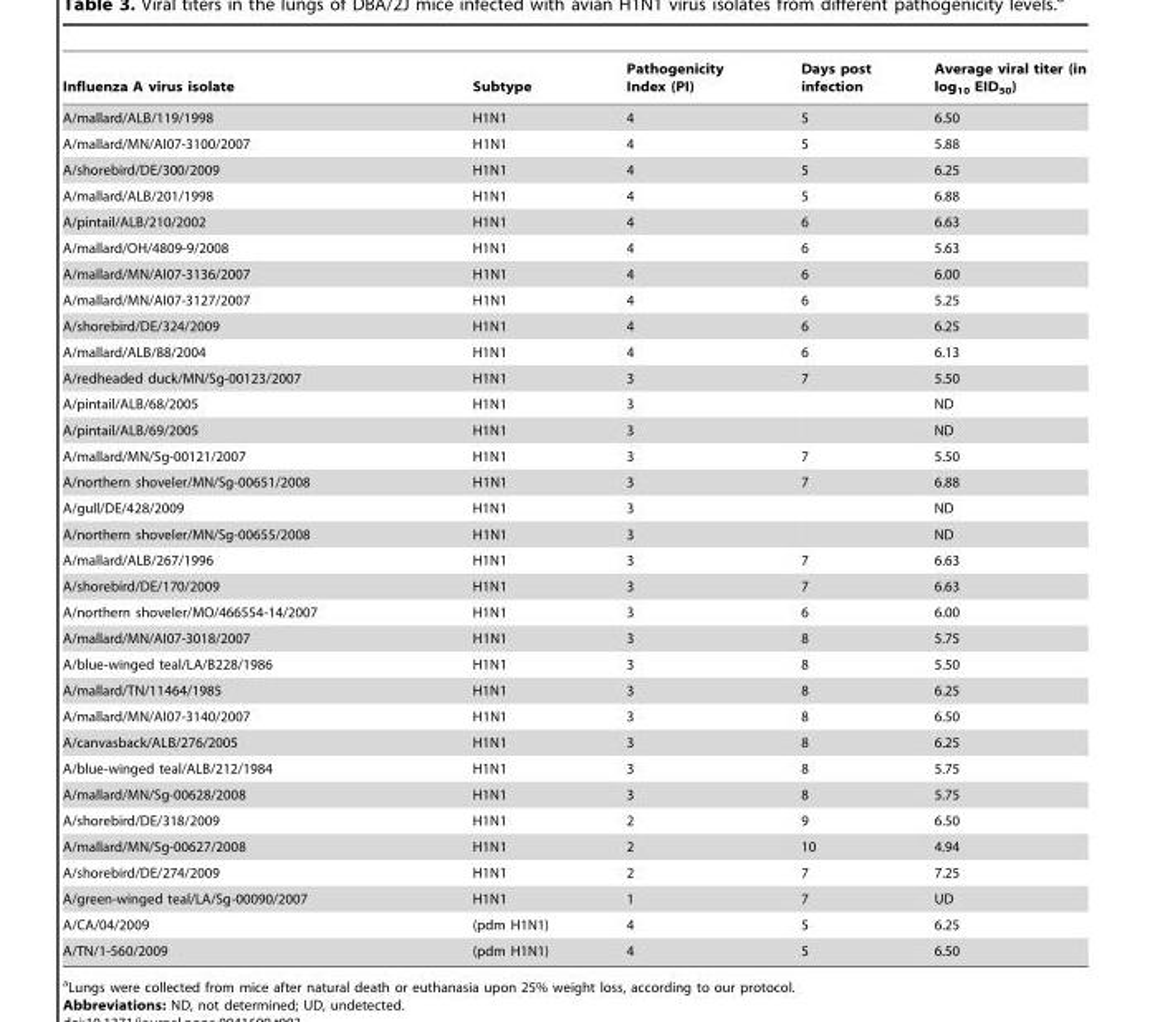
<table><thead><tr><td>Influenza A virus isolate</td><td>Subtype</td><td>Pathogenicity Index (PI)</td><td>Days post infection</td><td>Average viral titer (in log<sub>10</sub> EID<sub>50</sub>)</td></tr></thead><tbody><tr><td>A/mallard/ALB/119/1998</td><td>H1N1</td><td>4</td><td>5</td><td>6.50</td></tr><tr><td>A/mallard/MN/AI07-3100/2007</td><td>H1N1</td><td>4</td><td>5</td><td>5.88</td></tr><tr><td>A/shorebird/DE/300/2009</td><td>H1N1</td><td>4</td><td>5</td><td>6.25</td></tr><tr><td>A/mallard/ALB/201/1998</td><td>H1N1</td><td>4</td><td>5</td><td>6.88</td></tr><tr><td>A/pintail/ALB/210/2002</td><td>H1N1</td><td>4</td><td>6</td><td>6.63</td></tr><tr><td>A/mallard/OH/4809-9/2008</td><td>H1N1</td><td>4</td><td>6</td><td>5.63</td></tr><tr><td>A/mallard/MN/AI07-3136/2007</td><td>H1N1</td><td>4</td><td>6</td><td>6.00</td></tr><tr><td>A/mallard/MN/AI07-3127/2007</td><td>H1N1</td><td>4</td><td>6</td><td>5.25</td></tr><tr><td>A/shorebird/DE/324/2009</td><td>H1N1</td><td>4</td><td>6</td><td>6.25</td></tr><tr><td>A/mallard/ALB/88/2004</td><td>H1N1</td><td>4</td><td>6</td><td>6.13</td></tr><tr><td>A/redheaded duck/MN/Sg-00123/2007</td><td>H1N1</td><td>3</td><td>7</td><td>5.50</td></tr><tr><td>A/pintail/ALB/68/2005</td><td>H1N1</td><td>3</td><td></td><td>ND</td></tr><tr><td>A/pintail/ALB/69/2005</td><td>H1N1</td><td>3</td><td></td><td>ND</td></tr><tr><td>A/mallard/MN/Sg-00121/2007</td><td>H1N1</td><td>3</td><td>7</td><td>5.50</td></tr><tr><td>A/northern shoveler/MN/Sg-00651/2008</td><td>H1N1</td><td>3</td><td>7</td><td>6.88</td></tr><tr><td>A/gull/DE/428/2009</td><td>H1N1</td><td>3</td><td></td><td>ND</td></tr><tr><td>A/northern shoveler/MN/Sg-00655/2008</td><td>H1N1</td><td>3</td><td></td><td>ND</td></tr><tr><td>A/mallard/ALB/267/1996</td><td>H1N1</td><td>3</td><td>7</td><td>6.63</td></tr><tr><td>A/shorebird/DE/170/2009</td><td>H1N1</td><td>3</td><td>7</td><td>6.63</td></tr><tr><td>A/northern shoveler/MO/466554-14/2007</td><td>H1N1</td><td>3</td><td>6</td><td>6.00</td></tr><tr><td>A/mallard/MN/AI07-3018/2007</td><td>H1N1</td><td>3</td><td>8</td><td>5.75</td></tr><tr><td>A/blue-winged teal/LA/B228/1986</td><td>H1N1</td><td>3</td><td>8</td><td>5.50</td></tr><tr><td>A/mallard/TN/11464/1985</td><td>H1N1</td><td>3</td><td>8</td><td>6.25</td></tr><tr><td>A/mallard/MN/AI07-3140/2007</td><td>H1N1</td><td>3</td><td>8</td><td>6.50</td></tr><tr><td>A/canvasback/ALB/276/2005</td><td>H1N1</td><td>3</td><td>8</td><td>6.25</td></tr><tr><td>A/blue-winged teal/ALB/212/1984</td><td>H1N1</td><td>3</td><td>8</td><td>5.75</td></tr><tr><td>A/mallard/MN/Sg-00628/2008</td><td>H1N1</td><td>3</td><td>8</td><td>5.75</td></tr><tr><td>A/shorebird/DE/318/2009</td><td>H1N1</td><td>2</td><td>9</td><td>6.50</td></tr><tr><td>A/mallard/MN/Sg-00627/2008</td><td>H1N1</td><td>2</td><td>10</td><td>4.94</td></tr><tr><td>A/shorebird/DE/274/2009</td><td>H1N1</td><td>2</td><td>7</td><td>7.25</td></tr><tr><td>A/green-winged teal/LA/Sg-00090/2007</td><td>H1N1</td><td>1</td><td>7</td><td>UD</td></tr><tr><td>A/CA/04/2009</td><td>(pdm H1N1)</td><td>4</td><td>5</td><td>6.25</td></tr><tr><td>A/TN/1-560/2009</td><td>(pdm H1N1)</td><td>4</td><td>5</td><td>6.50</td></tr></tbody></table>